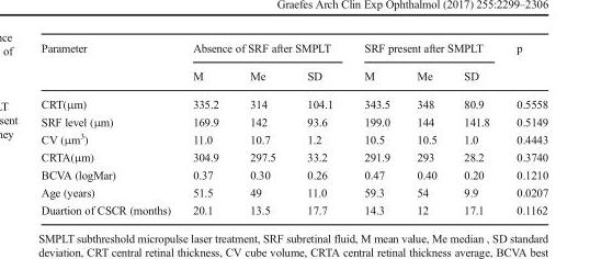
<table><thead><tr><td rowspan="2">Parameter</td><td colspan="3">Absence of SRF after SMPLT</td><td colspan="3">SRF present after SMPLT</td><td rowspan="2">p</td></tr><tr><td>M</td><td>Me</td><td>SD</td><td>M</td><td>Me</td><td>SD</td></tr></thead><tbody><tr><td>CRT(μm)</td><td>335.2</td><td>314</td><td>104.1</td><td>343.5</td><td>348</td><td>80.9</td><td>0.5558</td></tr><tr><td>SRF level (μm)</td><td>169.9</td><td>142</td><td>93.6</td><td>199.0</td><td>144</td><td>141.8</td><td>0.5149</td></tr><tr><td>CV (μm<sup>3</sup>)</td><td>11.0</td><td>10.7</td><td>1.2</td><td>10.5</td><td>10.5</td><td>1.0</td><td>0.4443</td></tr><tr><td>CRTA(μm)</td><td>304.9</td><td>297.5</td><td>33.2</td><td>291.9</td><td>293</td><td>28.2</td><td>0.3740</td></tr><tr><td>BCVA (logMar)</td><td>0.37</td><td>0.30</td><td>0.26</td><td>0.47</td><td>0.40</td><td>0.20</td><td>0.1210</td></tr><tr><td>Age (years)</td><td>51.5</td><td>49</td><td>11.0</td><td>59.3</td><td>54</td><td>9.9</td><td>0.0207</td></tr><tr><td>Duartion of CSCR (months)</td><td>20.1</td><td>13.5</td><td>17.7</td><td>14.3</td><td>12</td><td>17.1</td><td>0.1162</td></tr></tbody></table>